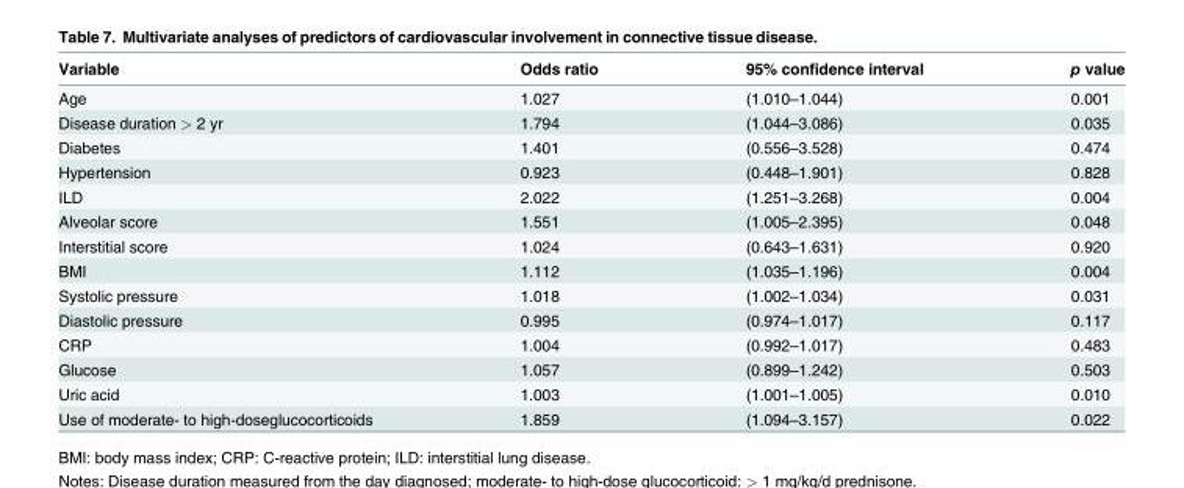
<table><thead><tr><td>Variable</td><td>Odds ratio</td><td>95% confidence interval</td><td>p value</td></tr></thead><tbody><tr><td>Age</td><td>1.027</td><td>(1.010–1.044)</td><td>0.001</td></tr><tr><td>Disease duration &gt; 2 yr</td><td>1.794</td><td>(1.044–3.086)</td><td>0.035</td></tr><tr><td>Diabetes</td><td>1.401</td><td>(0.556–3.528)</td><td>0.474</td></tr><tr><td>Hypertension</td><td>0.923</td><td>(0.448–1.901)</td><td>0.828</td></tr><tr><td>ILD</td><td>2.022</td><td>(1.251–3.268)</td><td>0.004</td></tr><tr><td>Alveolar score</td><td>1.551</td><td>(1.005–2.395)</td><td>0.048</td></tr><tr><td>Interstitial score</td><td>1.024</td><td>(0.643–1.631)</td><td>0.920</td></tr><tr><td>BMI</td><td>1.112</td><td>(1.035–1.196)</td><td>0.004</td></tr><tr><td>Systolic pressure</td><td>1.018</td><td>(1.002–1.034)</td><td>0.031</td></tr><tr><td>Diastolic pressure</td><td>0.995</td><td>(0.974–1.017)</td><td>0.117</td></tr><tr><td>CRP</td><td>1.004</td><td>(0.992–1.017)</td><td>0.483</td></tr><tr><td>Glucose</td><td>1.057</td><td>(0.899–1.242)</td><td>0.503</td></tr><tr><td>Uric acid</td><td>1.003</td><td>(1.001–1.005)</td><td>0.010</td></tr><tr><td>Use of moderate- to high-doseglucocorticoids</td><td>1.859</td><td>(1.094–3.157)</td><td>0.022</td></tr></tbody></table>